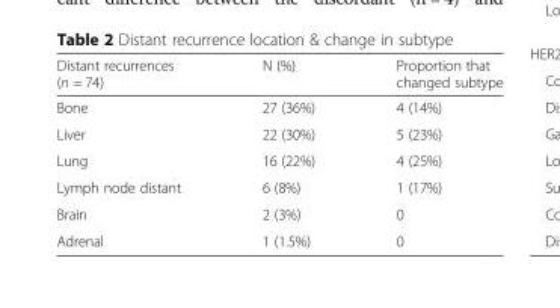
<table><thead><tr><td>Distant recurrences (n = 74)</td><td>N (%)</td><td>Proportion that changed subtype</td></tr></thead><tbody><tr><td>Bone</td><td>27 (36%)</td><td>4 (14%)</td></tr><tr><td>Liver</td><td>22 (30%)</td><td>5 (23%)</td></tr><tr><td>Lung</td><td>16 (22%)</td><td>4 (25%)</td></tr><tr><td>Lymph node distant</td><td>6 (8%)</td><td>1 (17%)</td></tr><tr><td>Brain</td><td>2 (3%)</td><td>0</td></tr><tr><td>Adrenal</td><td>1 (1.5%)</td><td>0</td></tr></tbody></table>